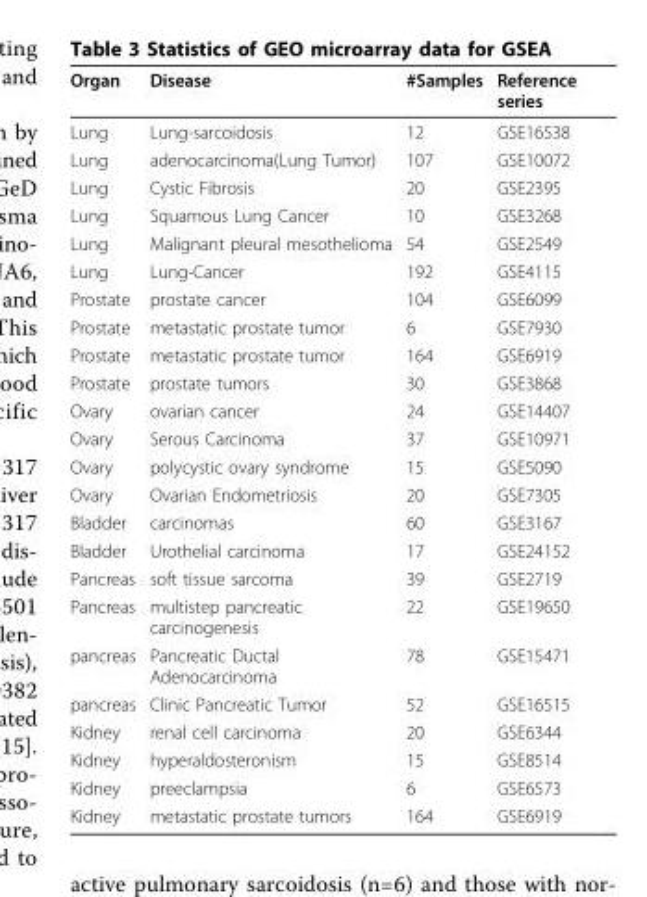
<table><thead><tr><td>Organ</td><td>Disease</td><td>#Samples</td><td>Reference series</td></tr></thead><tbody><tr><td>Lung</td><td>Lung-sarcoidosis</td><td>12</td><td>GSE16538</td></tr><tr><td>Lung</td><td>adenocarcinoma(Lung Tumor)</td><td>107</td><td>GSE10072</td></tr><tr><td>Lung</td><td>Cystic Fibrosis</td><td>20</td><td>GSE2395</td></tr><tr><td>Lung</td><td>Squamous Lung Cancer</td><td>10</td><td>GSE3268</td></tr><tr><td>Lung</td><td>Malignant pleural mesothelioma</td><td>54</td><td>GSE2549</td></tr><tr><td>Lung</td><td>Lung-Cancer</td><td>192</td><td>GSE4115</td></tr><tr><td>Prostate</td><td>prostate cancer</td><td>104</td><td>GSE6099</td></tr><tr><td>Prostate</td><td>metastatic prostate tumor</td><td>6</td><td>GSE7930</td></tr><tr><td>Prostate</td><td>metastatic prostate tumor</td><td>164</td><td>GSE6919</td></tr><tr><td>Prostate</td><td>prostate tumors</td><td>30</td><td>GSE3868</td></tr><tr><td>Ovary</td><td>ovarian cancer</td><td>24</td><td>GSE14407</td></tr><tr><td>Ovary</td><td>Serous Carcinoma</td><td>37</td><td>GSE10971</td></tr><tr><td>Ovary</td><td>polycystic ovary syndrome</td><td>15</td><td>GSE5090</td></tr><tr><td>Ovary</td><td>Ovarian Endometriosis</td><td>20</td><td>GSE7305</td></tr><tr><td>Bladder</td><td>carcinomas</td><td>60</td><td>GSE3167</td></tr><tr><td>Bladder</td><td>Urothelial carcinoma</td><td>17</td><td>GSE24152</td></tr><tr><td>Pancreas</td><td>soft tissue sarcoma</td><td>39</td><td>GSE2719</td></tr><tr><td>Pancreas</td><td>multistep pancreatic carcinogenesis</td><td>22</td><td>GSE19650</td></tr><tr><td>pancreas</td><td>Pancreatic Ductal Adenocarcinoma</td><td>78</td><td>GSE15471</td></tr><tr><td>pancreas</td><td>Clinic Pancreatic Tumor</td><td>52</td><td>GSE16515</td></tr><tr><td>Kidney</td><td>renal cell carcinoma</td><td>20</td><td>GSE6344</td></tr><tr><td>Kidney</td><td>hyperaldosteronism</td><td>15</td><td>GSE8514</td></tr><tr><td>Kidney</td><td>preeclampsia</td><td>6</td><td>GSE6573</td></tr><tr><td>Kidney</td><td>metastatic prostate tumors</td><td>164</td><td>GSE6919</td></tr></tbody></table>